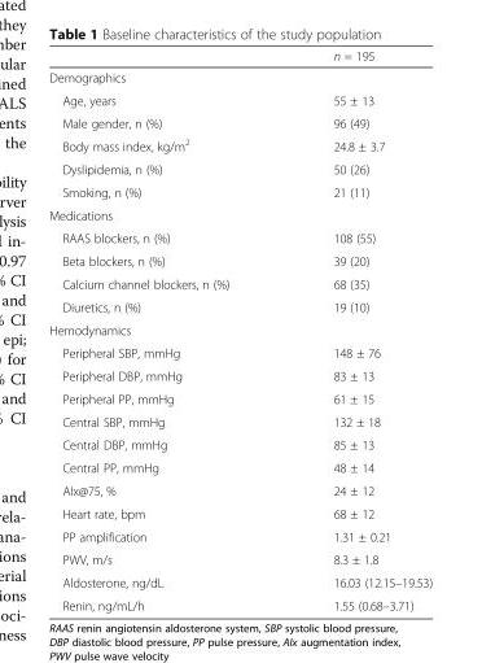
<table><thead><tr><td></td><td>n = 195</td></tr></thead><tbody><tr><td colspan="2">Demographics</td></tr><tr><td>Age, years</td><td>55 ± 13</td></tr><tr><td>Male gender, n (%)</td><td>96 (49)</td></tr><tr><td>Body mass index, kg/m<sup>2</sup></td><td>24.8 ± 3.7</td></tr><tr><td>Dyslipidemia, n (%)</td><td>50 (26)</td></tr><tr><td>Smoking, n (%)</td><td>21 (11)</td></tr><tr><td colspan="2">Medications</td></tr><tr><td>RAAS blockers, n (%)</td><td>108 (55)</td></tr><tr><td>Beta blockers, n (%)</td><td>39 (20)</td></tr><tr><td>Calcium channel blockers, n (%)</td><td>68 (35)</td></tr><tr><td>Diuretics, n (%)</td><td>19 (10)</td></tr><tr><td colspan="2">Hemodynamics</td></tr><tr><td>Peripheral SBP, mmHg</td><td>148 ± 76</td></tr><tr><td>Peripheral DBP, mmHg</td><td>83 ± 13</td></tr><tr><td>Peripheral PP, mmHg</td><td>61 ± 15</td></tr><tr><td>Central SBP, mmHg</td><td>132 ± 18</td></tr><tr><td>Central DBP, mmHg</td><td>85 ± 13</td></tr><tr><td>Central PP, mmHg</td><td>48 ± 14</td></tr><tr><td>AIx@75, %</td><td>24 ± 12</td></tr><tr><td>Heart rate, bpm</td><td>68 ± 12</td></tr><tr><td>PP amplification</td><td>1.31 ± 0.21</td></tr><tr><td>PWV, m/s</td><td>8.3 ± 1.8</td></tr><tr><td>Aldosterone, ng/dL</td><td>16.03 (12.15–19.53)</td></tr><tr><td>Renin, ng/mL/h</td><td>1.55 (0.68–3.71)</td></tr></tbody></table>